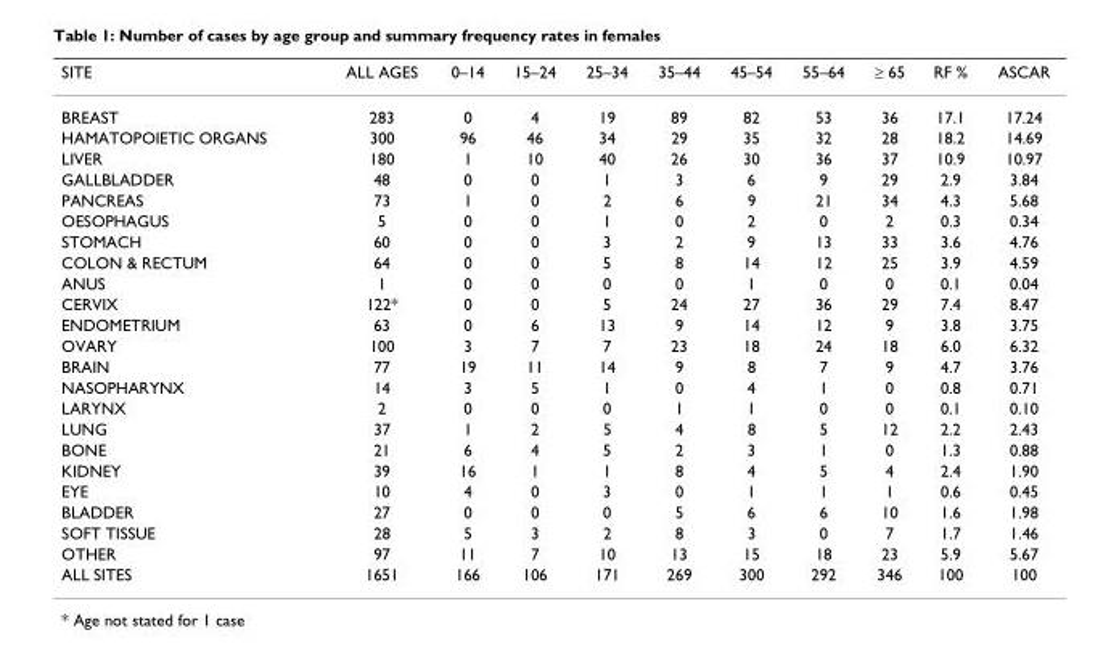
<table><thead><tr><td>SITE</td><td>ALL AGES</td><td>0–14</td><td>15–24</td><td>25–34</td><td>35–44</td><td>45–54</td><td>55–64</td><td>≥ 65</td><td>RF %</td><td>ASCAR</td></tr></thead><tbody><tr><td>BREAST</td><td>283</td><td>0</td><td>4</td><td>19</td><td>89</td><td>82</td><td>53</td><td>36</td><td>17.1</td><td>17.24</td></tr><tr><td>HAMATOPOIETIC ORGANS</td><td>300</td><td>96</td><td>46</td><td>34</td><td>29</td><td>35</td><td>32</td><td>28</td><td>18.2</td><td>14.69</td></tr><tr><td>LIVER</td><td>180</td><td>1</td><td>10</td><td>40</td><td>26</td><td>30</td><td>36</td><td>37</td><td>10.9</td><td>10.97</td></tr><tr><td>GALLBLADDER</td><td>48</td><td>0</td><td>0</td><td>1</td><td>3</td><td>6</td><td>9</td><td>29</td><td>2.9</td><td>3.84</td></tr><tr><td>PANCREAS</td><td>73</td><td>1</td><td>0</td><td>2</td><td>6</td><td>9</td><td>21</td><td>34</td><td>4.3</td><td>5.68</td></tr><tr><td>OESOPHAGUS</td><td>5</td><td>0</td><td>0</td><td>1</td><td>0</td><td>2</td><td>0</td><td>2</td><td>0.3</td><td>0.34</td></tr><tr><td>STOMACH</td><td>60</td><td>0</td><td>0</td><td>3</td><td>2</td><td>9</td><td>13</td><td>33</td><td>3.6</td><td>4.76</td></tr><tr><td>COLON &amp; RECTUM</td><td>64</td><td>0</td><td>0</td><td>5</td><td>8</td><td>14</td><td>12</td><td>25</td><td>3.9</td><td>4.59</td></tr><tr><td>ANUS</td><td>1</td><td>0</td><td>0</td><td>0</td><td>0</td><td>1</td><td>0</td><td>0</td><td>0.1</td><td>0.04</td></tr><tr><td>CERVIX</td><td>122*</td><td>0</td><td>0</td><td>5</td><td>24</td><td>27</td><td>36</td><td>29</td><td>7.4</td><td>8.47</td></tr><tr><td>ENDOMETRIUM</td><td>63</td><td>0</td><td>6</td><td>13</td><td>9</td><td>14</td><td>12</td><td>9</td><td>3.8</td><td>3.75</td></tr><tr><td>OVARY</td><td>100</td><td>3</td><td>7</td><td>7</td><td>23</td><td>18</td><td>24</td><td>18</td><td>6.0</td><td>6.32</td></tr><tr><td>BRAIN</td><td>77</td><td>19</td><td>11</td><td>14</td><td>9</td><td>8</td><td>7</td><td>9</td><td>4.7</td><td>3.76</td></tr><tr><td>NASOPHARYNX</td><td>14</td><td>3</td><td>5</td><td>1</td><td>0</td><td>4</td><td>1</td><td>0</td><td>0.8</td><td>0.71</td></tr><tr><td>LARYNX</td><td>2</td><td>0</td><td>0</td><td>0</td><td>1</td><td>1</td><td>0</td><td>0</td><td>0.1</td><td>0.10</td></tr><tr><td>LUNG</td><td>37</td><td>1</td><td>2</td><td>5</td><td>4</td><td>8</td><td>5</td><td>12</td><td>2.2</td><td>2.43</td></tr><tr><td>BONE</td><td>21</td><td>6</td><td>4</td><td>5</td><td>2</td><td>3</td><td>1</td><td>0</td><td>1.3</td><td>0.88</td></tr><tr><td>KIDNEY</td><td>39</td><td>16</td><td>1</td><td>1</td><td>8</td><td>4</td><td>5</td><td>4</td><td>2.4</td><td>1.90</td></tr><tr><td>EYE</td><td>10</td><td>4</td><td>0</td><td>3</td><td>0</td><td>1</td><td>1</td><td>1</td><td>0.6</td><td>0.45</td></tr><tr><td>BLADDER</td><td>27</td><td>0</td><td>0</td><td>0</td><td>5</td><td>6</td><td>6</td><td>10</td><td>1.6</td><td>1.98</td></tr><tr><td>SOFT TISSUE</td><td>28</td><td>5</td><td>3</td><td>2</td><td>8</td><td>3</td><td>0</td><td>7</td><td>1.7</td><td>1.46</td></tr><tr><td>OTHER</td><td>97</td><td>11</td><td>7</td><td>10</td><td>13</td><td>15</td><td>18</td><td>23</td><td>5.9</td><td>5.67</td></tr><tr><td>ALL SITES</td><td>1651</td><td>166</td><td>106</td><td>171</td><td>269</td><td>300</td><td>292</td><td>346</td><td>100</td><td>100</td></tr></tbody></table>